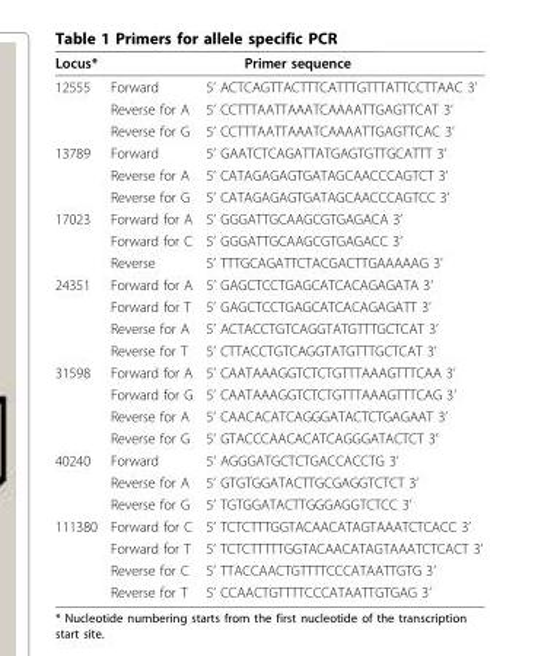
<table><thead><tr><td rowspan="2">Locus* 12555</td><td colspan="2">Primer sequence</td></tr><tr><td>Forward</td><td>5’ ACTCAGTTACTTTCATTTGTTTATTCCTTAAC 3’</td></tr></thead><tbody><tr><td></td><td>Reverse for A</td><td>5’ CCTTTAATTAAATCAAAATTGAGTTCAT 3’</td></tr><tr><td></td><td>Reverse for G</td><td>5’ CCTTTAATTAAATCAAAATTGAGTTCAC 3’</td></tr><tr><td rowspan="3">13789</td><td>Forward</td><td>5’ GAATCTCAGATTATGAGTGTTGCATTT 3’</td></tr><tr><td>Reverse for A</td><td>5’ CATAGAGAGTGATAGCAACCCAGTCT 3’</td></tr><tr><td>Reverse for G</td><td>5’ CATAGAGAGTGATAGCAACCCAGTCC 3’</td></tr><tr><td rowspan="3">17023</td><td>Forward for A</td><td>5’ GGGATTGCAAGCGTGAGACA 3’</td></tr><tr><td>Forward for C</td><td>5’ GGGATTGCAAGCGTGAGACC 3’</td></tr><tr><td>Reverse</td><td>5’ TTTGCAGATTCTACGACTTGAAAAAG 3’</td></tr><tr><td rowspan="4">24351</td><td>Forward for A</td><td>5’ GAGCTCCTGAGCATCACAGAGATA 3’</td></tr><tr><td>Forward for T</td><td>5’ GAGCTCCTGAGCATCACAGAGATT 3’</td></tr><tr><td>Reverse for A</td><td>5’ ACTACCTGTCAGGTATGTTTGCTCAT 3’</td></tr><tr><td>Reverse for T</td><td>5’ CTTACCTGTCAGGTATGTTTGCTCAT 3’</td></tr><tr><td rowspan="4">31598</td><td>Forward for A</td><td>5’ CAATAAAGGTCTCTGTTTAAAGTTTCAA 3’</td></tr><tr><td>Forward for G</td><td>5’ CAATAAAGGTCTCTGTTTAAAGTTTCAG 3’</td></tr><tr><td>Reverse for A</td><td>5’ CAACACATCAGGGATACTCTGAGAAT 3’</td></tr><tr><td>Reverse for G</td><td>5’ GTACCCAACACATCAGGGATACTCT 3’</td></tr><tr><td rowspan="3">40240</td><td>Forward</td><td>5’ AGGGATGCTCTGACCACCTG 3’</td></tr><tr><td>Reverse for A</td><td>5’ GTGTGGATACTTGCGAGGTCTCT 3’</td></tr><tr><td>Reverse for G</td><td>5’ TGTGGATACTTGGGAGGTCTCC 3’</td></tr><tr><td rowspan="4">111380</td><td>Forward for C</td><td>5’ TCTCTTTGGTACAACATAGTAAATCTCACC 3’</td></tr><tr><td>Forward for T</td><td>5’ TCTCTTTTTGGTACAACATAGTAAATCTCACT 3’</td></tr><tr><td>Reverse for C</td><td>5’ TTACCAACTGTTTTCCCATAATTGTG 3’</td></tr><tr><td>Reverse for T</td><td>5’ CCAACTGTTTTCCCATAATTGTGAG 3’</td></tr></tbody></table>